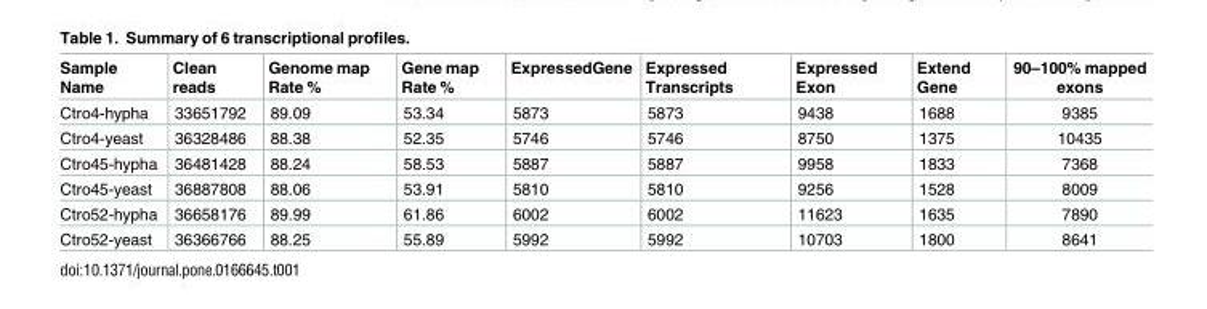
<table><thead><tr><td>Sample Name</td><td>Clean reads</td><td>Genome map Rate %</td><td>Gene map Rate %</td><td>ExpressedGene</td><td>Expressed Transcripts</td><td>Expressed Exon</td><td>Extend Gene</td><td>90–100% mapped exons</td></tr></thead><tbody><tr><td>Ctro4-hypha</td><td>33651792</td><td>89.09</td><td>53.34</td><td>5873</td><td>5873</td><td>9438</td><td>1688</td><td>9385</td></tr><tr><td>Ctro4-yeast</td><td>36328486</td><td>88.38</td><td>52.35</td><td>5746</td><td>5746</td><td>8750</td><td>1375</td><td>10435</td></tr><tr><td>Ctro45-hypha</td><td>36481428</td><td>88.24</td><td>58.53</td><td>5887</td><td>5887</td><td>9958</td><td>1833</td><td>7368</td></tr><tr><td>Ctro45-yeast</td><td>36887808</td><td>88.06</td><td>53.91</td><td>5810</td><td>5810</td><td>9256</td><td>1528</td><td>8009</td></tr><tr><td>Ctro52-hypha</td><td>36658176</td><td>89.99</td><td>61.86</td><td>6002</td><td>6002</td><td>11623</td><td>1635</td><td>7890</td></tr><tr><td>Ctro52-yeast</td><td>36366766</td><td>88.25</td><td>55.89</td><td>5992</td><td>5992</td><td>10703</td><td>1800</td><td>8641</td></tr></tbody></table>